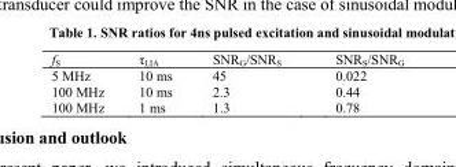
<table><thead><tr><td>f<sub>S</sub></td><td>τ<sub>LIA</sub></td><td>SNR<sub>G</sub>/SNR<sub>S</sub></td><td>SNR<sub>S</sub>/SNR<sub>G</sub></td></tr></thead><tbody><tr><td>5 MHz</td><td>10 ms</td><td>45</td><td>0.022</td></tr><tr><td>100 MHz</td><td>10 ms</td><td>2.3</td><td>0.44</td></tr><tr><td>100 MHz</td><td>1 ms</td><td>1.3</td><td>0.78</td></tr></tbody></table>